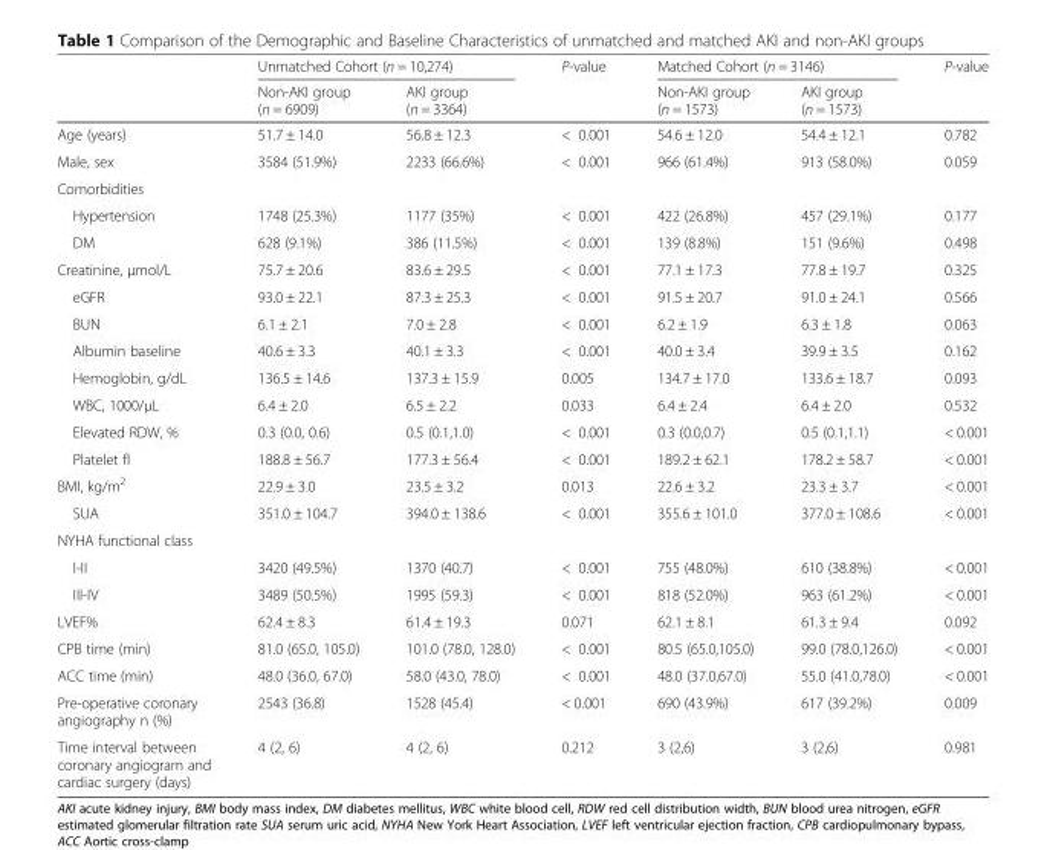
<table><thead><tr><td rowspan="2"></td><td colspan="2">Unmatched Cohort (n = 10,274)</td><td rowspan="2">P-value</td><td colspan="2">Matched Cohort (n = 3146)</td><td rowspan="2">P-value</td></tr><tr><td>Non-AKI group (n = 6909)</td><td>AKI group (n = 3364)</td><td>Non-AKI group (n = 1573)</td><td>AKI group (n = 1573)</td></tr></thead><tbody><tr><td>Age (years)</td><td>51.7 ± 14.0</td><td>56.8 ± 12.3</td><td>&lt; 0.001</td><td>54.6 ± 12.0</td><td>54.4 ± 12.1</td><td>0.782</td></tr><tr><td>Male, sex</td><td>3584 (51.9%)</td><td>2233 (66.6%)</td><td>&lt; 0.001</td><td>966 (61.4%)</td><td>913 (58.0%)</td><td>0.059</td></tr><tr><td colspan="7">Comorbidities</td></tr><tr><td>Hypertension</td><td>1748 (25.3%)</td><td>1177 (35%)</td><td>&lt; 0.001</td><td>422 (26.8%)</td><td>457 (29.1%)</td><td>0.177</td></tr><tr><td>DM</td><td>628 (9.1%)</td><td>386 (11.5%)</td><td>&lt; 0.001</td><td>139 (8.8%)</td><td>151 (9.6%)</td><td>0.498</td></tr><tr><td>Creatinine, μmol/L</td><td>75.7 ± 20.6</td><td>83.6 ± 29.5</td><td>&lt; 0.001</td><td>77.1 ± 17.3</td><td>77.8 ± 19.7</td><td>0.325</td></tr><tr><td>eGFR</td><td>93.0 ± 22.1</td><td>87.3 ± 25.3</td><td>&lt; 0.001</td><td>91.5 ± 20.7</td><td>91.0 ± 24.1</td><td>0.566</td></tr><tr><td>BUN</td><td>6.1 ± 2.1</td><td>7.0 ± 2.8</td><td>&lt; 0.001</td><td>6.2 ± 1.9</td><td>6.3 ± 1.8</td><td>0.063</td></tr><tr><td>Albumin baseline</td><td>40.6 ± 3.3</td><td>40.1 ± 3.3</td><td>&lt; 0.001</td><td>40.0 ± 3.4</td><td>39.9 ± 3.5</td><td>0.162</td></tr><tr><td>Hemoglobin, g/dL</td><td>136.5 ± 14.6</td><td>137.3 ± 15.9</td><td>0.005</td><td>134.7 ± 17.0</td><td>133.6 ± 18.7</td><td>0.093</td></tr><tr><td>WBC, 1000/μL</td><td>6.4 ± 2.0</td><td>6.5 ± 2.2</td><td>0.033</td><td>6.4 ± 2.4</td><td>6.4 ± 2.0</td><td>0.532</td></tr><tr><td>Elevated RDW, %</td><td>0.3 (0.0, 0.6)</td><td>0.5 (0.1,1.0)</td><td>&lt; 0.001</td><td>0.3 (0.0,0.7)</td><td>0.5 (0.1,1.1)</td><td>&lt; 0.001</td></tr><tr><td>Platelet fl</td><td>188.8 ± 56.7</td><td>177.3 ± 56.4</td><td>&lt; 0.001</td><td>189.2 ± 62.1</td><td>178.2 ± 58.7</td><td>&lt; 0.001</td></tr><tr><td>BMI, kg/m<sup>2</sup></td><td>22.9 ± 3.0</td><td>23.5 ± 3.2</td><td>0.013</td><td>22.6 ± 3.2</td><td>23.3 ± 3.7</td><td>&lt; 0.001</td></tr><tr><td>SUA</td><td>351.0 ± 104.7</td><td>394.0 ± 138.6</td><td>&lt; 0.001</td><td>355.6 ± 101.0</td><td>377.0 ± 108.6</td><td>&lt; 0.001</td></tr><tr><td colspan="7">NYHA functional class</td></tr><tr><td>I-II</td><td>3420 (49.5%)</td><td>1370 (40.7)</td><td>&lt; 0.001</td><td>755 (48.0%)</td><td>610 (38.8%)</td><td>&lt; 0.001</td></tr><tr><td>III-IV</td><td>3489 (50.5%)</td><td>1995 (59.3)</td><td>&lt; 0.001</td><td>818 (52.0%)</td><td>963 (61.2%)</td><td>&lt; 0.001</td></tr><tr><td>LVEF%</td><td>62.4 ± 8.3</td><td>61.4 ± 19.3</td><td>0.071</td><td>62.1 ± 8.1</td><td>61.3 ± 9.4</td><td>0.092</td></tr><tr><td>CPB time (min)</td><td>81.0 (65.0, 105.0)</td><td>101.0 (78.0, 128.0)</td><td>&lt; 0.001</td><td>80.5 (65.0,105.0)</td><td>99.0 (78.0,126.0)</td><td>&lt; 0.001</td></tr><tr><td>ACC time (min)</td><td>48.0 (36.0, 67.0)</td><td>58.0 (43.0, 78.0)</td><td>&lt; 0.001</td><td>48.0 (37.0,67.0)</td><td>55.0 (41.0,78.0)</td><td>&lt; 0.001</td></tr><tr><td>Pre-operative coronary angiography n (%)</td><td>2543 (36.8)</td><td>1528 (45.4)</td><td>&lt; 0.001</td><td>690 (43.9%)</td><td>617 (39.2%)</td><td>0.009</td></tr><tr><td>Time interval between coronary angiogram and cardiac surgery (days)</td><td>4 (2, 6)</td><td>4 (2, 6)</td><td>0.212</td><td>3 (2,6)</td><td>3 (2,6)</td><td>0.981</td></tr></tbody></table>